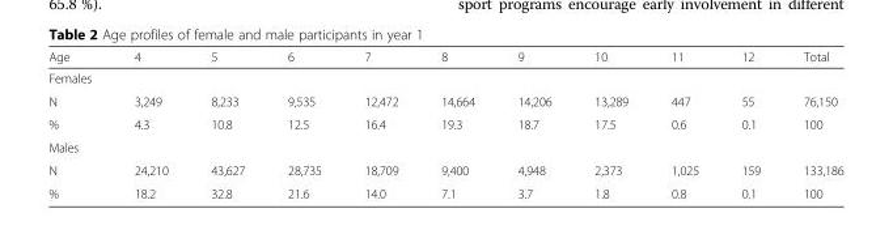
<table><thead><tr><td>Age</td><td>4</td><td>5</td><td>6</td><td>7</td><td>8</td><td>9</td><td>10</td><td>11</td><td>12</td><td>Total</td></tr></thead><tbody><tr><td colspan="11">Females</td></tr><tr><td>N</td><td>3,249</td><td>8,233</td><td>9,535</td><td>12,472</td><td>14,664</td><td>14,206</td><td>13,289</td><td>447</td><td>55</td><td>76,150</td></tr><tr><td>%</td><td>4.3</td><td>10.8</td><td>12.5</td><td>16.4</td><td>19.3</td><td>18.7</td><td>17.5</td><td>0.6</td><td>0.1</td><td>100</td></tr><tr><td colspan="11">Males</td></tr><tr><td>N</td><td>24,210</td><td>43,627</td><td>28,735</td><td>18,709</td><td>9,400</td><td>4,948</td><td>2,373</td><td>1,025</td><td>159</td><td>133,186</td></tr><tr><td>%</td><td>18.2</td><td>32.8</td><td>21.6</td><td>14.0</td><td>7.1</td><td>3.7</td><td>1.8</td><td>0.8</td><td>0.1</td><td>100</td></tr></tbody></table>